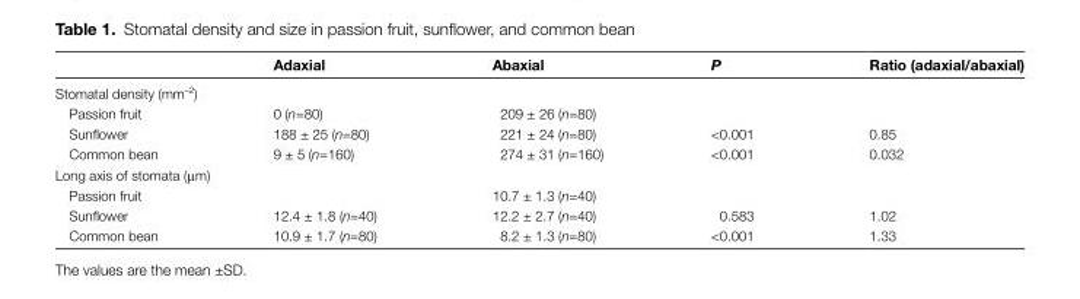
<table><thead><tr><td></td><td>Adaxial</td><td>Abaxial</td><td>P</td><td>Ratio (adaxial/abaxial)</td></tr></thead><tbody><tr><td colspan="5">Stomatal density (mm<sup>–2</sup>)</td></tr><tr><td>Passion fruit</td><td>0 (n=80)</td><td>209 ± 26 (n=80)</td><td></td><td></td></tr><tr><td>Sunflower</td><td>188 ± 25 (n=80)</td><td>221 ± 24 (n=80)</td><td>&lt;0.001</td><td>0.85</td></tr><tr><td>Common bean</td><td>9 ± 5 (n=160)</td><td>274 ± 31 (n=160)</td><td>&lt;0.001</td><td>0.032</td></tr><tr><td colspan="5">Long axis of stomata (μm)</td></tr><tr><td>Passion fruit</td><td></td><td>10.7 ± 1.3 (n=40)</td><td></td><td></td></tr><tr><td>Sunflower</td><td>12.4 ± 1.8 (n=40)</td><td>12.2 ± 2.7 (n=40)</td><td>0.583</td><td>1.02</td></tr><tr><td>Common bean</td><td>10.9 ± 1.7 (n=80)</td><td>8.2 ± 1.3 (n=80)</td><td>&lt;0.001</td><td>1.33</td></tr></tbody></table>